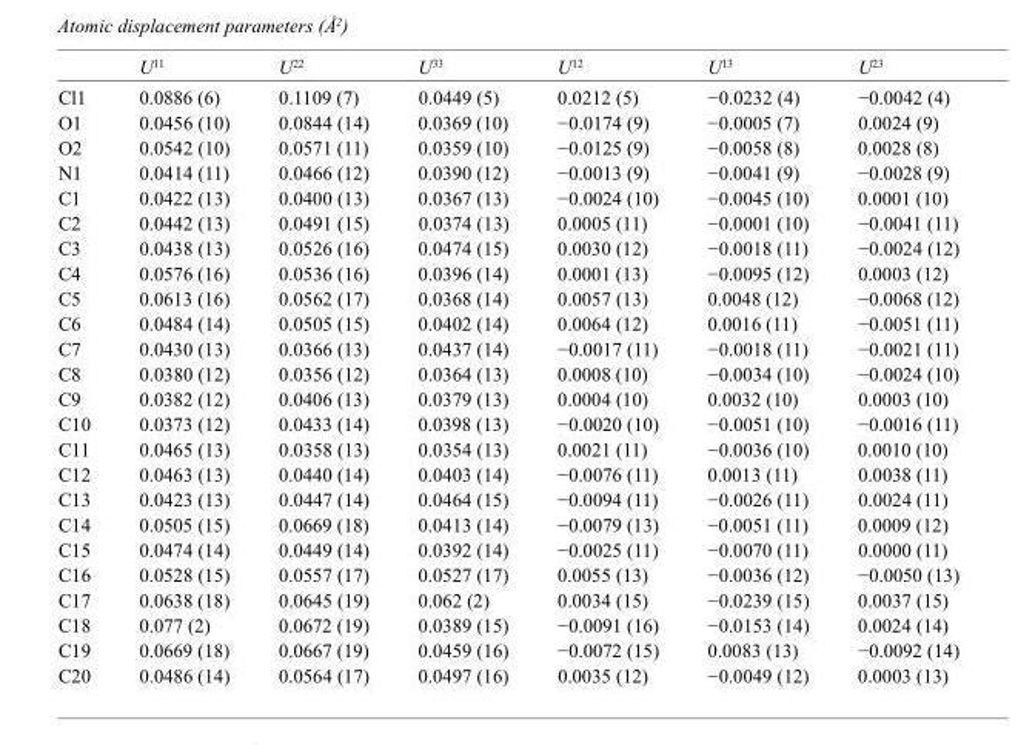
<table><thead><tr><td></td><td>U<sup>11</sup></td><td>U<sup>22</sup></td><td>U<sup>33</sup></td><td>U<sup>12</sup></td><td>U<sup>13</sup></td><td>U<sup>23</sup></td></tr></thead><tbody><tr><td>Cl1</td><td>0.0886 (6)</td><td>0.1109 (7)</td><td>0.0449 (5)</td><td>0.0212 (5)</td><td>−0.0232 (4)</td><td>−0.0042 (4)</td></tr><tr><td>O1</td><td>0.0456 (10)</td><td>0.0844 (14)</td><td>0.0369 (10)</td><td>−0.0174 (9)</td><td>−0.0005 (7)</td><td>0.0024 (9)</td></tr><tr><td>O2</td><td>0.0542 (10)</td><td>0.0571 (11)</td><td>0.0359 (10)</td><td>−0.0125 (9)</td><td>−0.0058 (8)</td><td>0.0028 (8)</td></tr><tr><td>N1</td><td>0.0414 (11)</td><td>0.0466 (12)</td><td>0.0390 (12)</td><td>−0.0013 (9)</td><td>−0.0041 (9)</td><td>−0.0028 (9)</td></tr><tr><td>C1</td><td>0.0422 (13)</td><td>0.0400 (13)</td><td>0.0367 (13)</td><td>−0.0024 (10)</td><td>−0.0045 (10)</td><td>0.0001 (10)</td></tr><tr><td>C2</td><td>0.0442 (13)</td><td>0.0491 (15)</td><td>0.0374 (13)</td><td>0.0005 (11)</td><td>−0.0001 (10)</td><td>−0.0041 (11)</td></tr><tr><td>C3</td><td>0.0438 (13)</td><td>0.0526 (16)</td><td>0.0474 (15)</td><td>0.0030 (12)</td><td>−0.0018 (11)</td><td>−0.0024 (12)</td></tr><tr><td>C4</td><td>0.0576 (16)</td><td>0.0536 (16)</td><td>0.0396 (14)</td><td>0.0001 (13)</td><td>−0.0095 (12)</td><td>0.0003 (12)</td></tr><tr><td>C5</td><td>0.0613 (16)</td><td>0.0562 (17)</td><td>0.0368 (14)</td><td>0.0057 (13)</td><td>0.0048 (12)</td><td>−0.0068 (12)</td></tr><tr><td>C6</td><td>0.0484 (14)</td><td>0.0505 (15)</td><td>0.0402 (14)</td><td>0.0064 (12)</td><td>0.0016 (11)</td><td>−0.0051 (11)</td></tr><tr><td>C7</td><td>0.0430 (13)</td><td>0.0366 (13)</td><td>0.0437 (14)</td><td>−0.0017 (11)</td><td>−0.0018 (11)</td><td>−0.0021 (11)</td></tr><tr><td>C8</td><td>0.0380 (12)</td><td>0.0356 (12)</td><td>0.0364 (13)</td><td>0.0008 (10)</td><td>−0.0034 (10)</td><td>−0.0024 (10)</td></tr><tr><td>C9</td><td>0.0382 (12)</td><td>0.0406 (13)</td><td>0.0379 (13)</td><td>0.0004 (10)</td><td>0.0032 (10)</td><td>0.0003 (10)</td></tr><tr><td>C10</td><td>0.0373 (12)</td><td>0.0433 (14)</td><td>0.0398 (13)</td><td>−0.0020 (10)</td><td>−0.0051 (10)</td><td>−0.0016 (11)</td></tr><tr><td>C11</td><td>0.0465 (13)</td><td>0.0358 (13)</td><td>0.0354 (13)</td><td>0.0021 (11)</td><td>−0.0036 (10)</td><td>0.0010 (10)</td></tr><tr><td>C12</td><td>0.0463 (13)</td><td>0.0440 (14)</td><td>0.0403 (14)</td><td>−0.0076 (11)</td><td>0.0013 (11)</td><td>0.0038 (11)</td></tr><tr><td>C13</td><td>0.0423 (13)</td><td>0.0447 (14)</td><td>0.0464 (15)</td><td>−0.0094 (11)</td><td>−0.0026 (11)</td><td>0.0024 (11)</td></tr><tr><td>C14</td><td>0.0505 (15)</td><td>0.0669 (18)</td><td>0.0413 (14)</td><td>−0.0079 (13)</td><td>−0.0051 (11)</td><td>0.0009 (12)</td></tr><tr><td>C15</td><td>0.0474 (14)</td><td>0.0449 (14)</td><td>0.0392 (14)</td><td>−0.0025 (11)</td><td>−0.0070 (11)</td><td>0.0000 (11)</td></tr><tr><td>C16</td><td>0.0528 (15)</td><td>0.0557 (17)</td><td>0.0527 (17)</td><td>0.0055 (13)</td><td>−0.0036 (12)</td><td>−0.0050 (13)</td></tr><tr><td>C17</td><td>0.0638 (18)</td><td>0.0645 (19)</td><td>0.062 (2)</td><td>0.0034 (15)</td><td>−0.0239 (15)</td><td>0.0037 (15)</td></tr><tr><td>C18</td><td>0.077 (2)</td><td>0.0672 (19)</td><td>0.0389 (15)</td><td>−0.0091 (16)</td><td>−0.0153 (14)</td><td>0.0024 (14)</td></tr><tr><td>C19</td><td>0.0669 (18)</td><td>0.0667 (19)</td><td>0.0459 (16)</td><td>−0.0072 (15)</td><td>0.0083 (13)</td><td>−0.0092 (14)</td></tr><tr><td>C20</td><td>0.0486 (14)</td><td>0.0564 (17)</td><td>0.0497 (16)</td><td>0.0035 (12)</td><td>−0.0049 (12)</td><td>0.0003 (13)</td></tr></tbody></table>